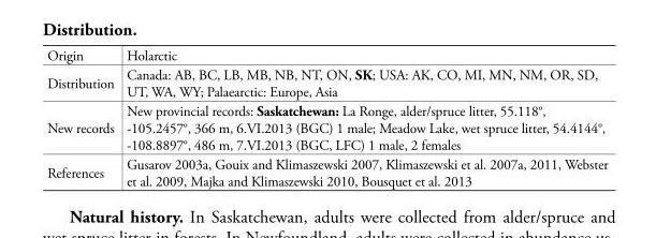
<table><tbody><tr><td>Origin</td><td>Holarctic</td></tr><tr><td>Distribution</td><td>Canada: AB, BC, LB, MB, NB, NT, ON, SK; USA: AK, CO, MI, MN, NM, OR, SD, UT, WA, WY; Palaearctic: Europe, Asia</td></tr><tr><td>New records</td><td>New provincial records: Saskatchewan: La Ronge, alder/spruce litter, 55.118°, -105.2457°, 366 m, 6.VI.2013 (BGC) 1 male; Meadow Lake, wet spruce litter, 54.4144°, -108.8897°, 486 m, 7.VI.2013 (BGC, LFC) 1 male, 2 females</td></tr><tr><td>References</td><td>Gusarov 2003a, Gouix and Klimaszewski 2007, Klimaszewski et al. 2007a, 2011, Webster et al. 2009, Majka and Klimaszewski 2010, Bousquet et al. 2013</td></tr></tbody></table>